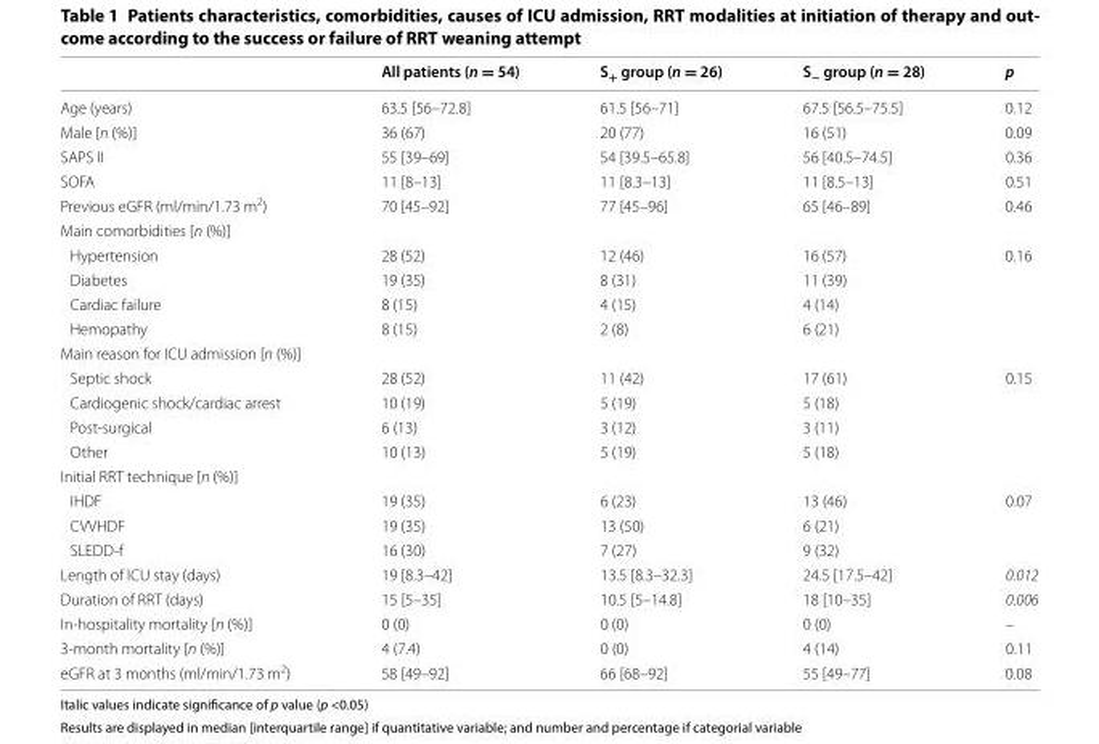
<table><thead><tr><td></td><td>All patients (n = 54)</td><td>S<sub>+</sub> group (n = 26)</td><td>S<sub>−</sub> group (n = 28)</td><td>p</td></tr></thead><tbody><tr><td>Age (years)</td><td>63.5 [56–72.8]</td><td>61.5 [56–71]</td><td>67.5 [56.5–75.5]</td><td>0.12</td></tr><tr><td>Male [n (%)]</td><td>36 (67)</td><td>20 (77)</td><td>16 (51)</td><td>0.09</td></tr><tr><td>SAPS II</td><td>55 [39–69]</td><td>54 [39.5–65.8]</td><td>56 [40.5–74.5]</td><td>0.36</td></tr><tr><td>SOFA</td><td>11 [8–13]</td><td>11 [8.3–13]</td><td>11 [8.5–13]</td><td>0.51</td></tr><tr><td>Previous eGFR (ml/min/1.73 m<sup>2</sup>)</td><td>70 [45–92]</td><td>77 [45–96]</td><td>65 [46–89]</td><td>0.46</td></tr><tr><td colspan="5">Main comorbidities [n (%)]</td></tr><tr><td>Hypertension</td><td>28 (52)</td><td>12 (46)</td><td>16 (57)</td><td>0.16</td></tr><tr><td>Diabetes</td><td>19 (35)</td><td>8 (31)</td><td>11 (39)</td><td></td></tr><tr><td>Cardiac failure</td><td>8 (15)</td><td>4 (15)</td><td>4 (14)</td><td></td></tr><tr><td>Hemopathy</td><td>8 (15)</td><td>2 (8)</td><td>6 (21)</td><td></td></tr><tr><td colspan="5">Main reason for ICU admission [n (%)]</td></tr><tr><td>Septic shock</td><td>28 (52)</td><td>11 (42)</td><td>17 (61)</td><td>0.15</td></tr><tr><td>Cardiogenic shock/cardiac arrest</td><td>10 (19)</td><td>5 (19)</td><td>5 (18)</td><td></td></tr><tr><td>Post-surgical</td><td>6 (13)</td><td>3 (12)</td><td>3 (11)</td><td></td></tr><tr><td>Other</td><td>10 (13)</td><td>5 (19)</td><td>5 (18)</td><td></td></tr><tr><td colspan="5">Initial RRT technique [n (%)]</td></tr><tr><td>IHDF</td><td>19 (35)</td><td>6 (23)</td><td>13 (46)</td><td>0.07</td></tr><tr><td>CVVHDF</td><td>19 (35)</td><td>13 (50)</td><td>6 (21)</td><td></td></tr><tr><td>SLEDD-f</td><td>16 (30)</td><td>7 (27)</td><td>9 (32)</td><td></td></tr><tr><td>Length of ICU stay (days)</td><td>19 [8.3–42]</td><td>13.5 [8.3–32.3]</td><td>24.5 [17.5–42]</td><td>0.012</td></tr><tr><td>Duration of RRT (days)</td><td>15 [5–35]</td><td>10.5 [5–14.8]</td><td>18 [10–35]</td><td>0.006</td></tr><tr><td>In-hospitality mortality [n (%)]</td><td>0 (0)</td><td>0 (0)</td><td>0 (0)</td><td>–</td></tr><tr><td>3-month mortality [n (%)]</td><td>4 (7.4)</td><td>0 (0)</td><td>4 (14)</td><td>0.11</td></tr><tr><td>eGFR at 3 months (ml/min/1.73 m<sup>2</sup>)</td><td>58 [49–92]</td><td>66 [68–92]</td><td>55 [49–77]</td><td>0.08</td></tr></tbody></table>